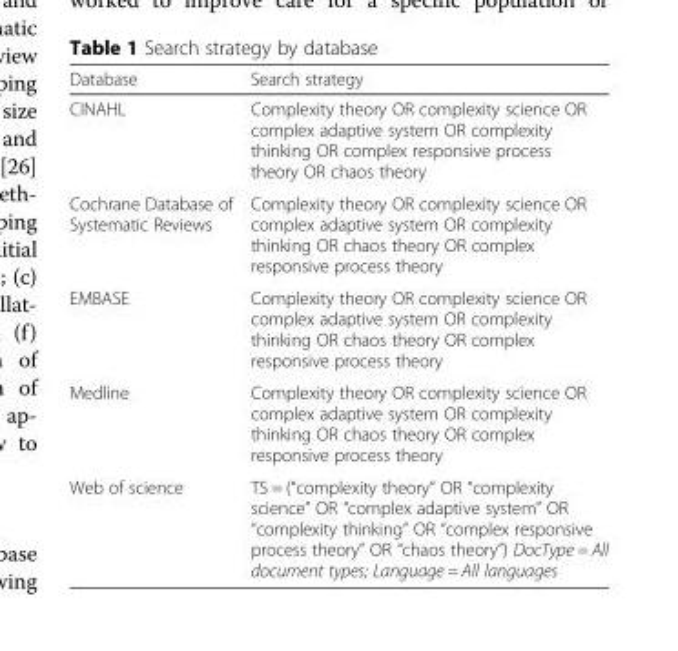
<table><thead><tr><td>Database</td><td>Search strategy</td></tr></thead><tbody><tr><td>CINAHL</td><td>Complexity theory OR complexity science OR complex adaptive system OR complexity thinking OR complex responsive process theory OR chaos theory</td></tr><tr><td>Cochrane Database of Systematic Reviews</td><td>Complexity theory OR complexity science OR complex adaptive system OR complexity thinking OR chaos theory OR complex responsive process theory</td></tr><tr><td>EMBASE</td><td>Complexity theory OR complexity science OR complex adaptive system OR complexity thinking OR chaos theory OR complex responsive process theory</td></tr><tr><td>Medline</td><td>Complexity theory OR complexity science OR complex adaptive system OR complexity thinking OR chaos theory OR complex responsive process theory</td></tr><tr><td>Web of science</td><td>TS = (“complexity theory” OR “complexity science” OR “complex adaptive system” OR “complexity thinking” OR “complex responsive process theory” OR “chaos theory”) DocType = All document types; Language = All languages</td></tr></tbody></table>